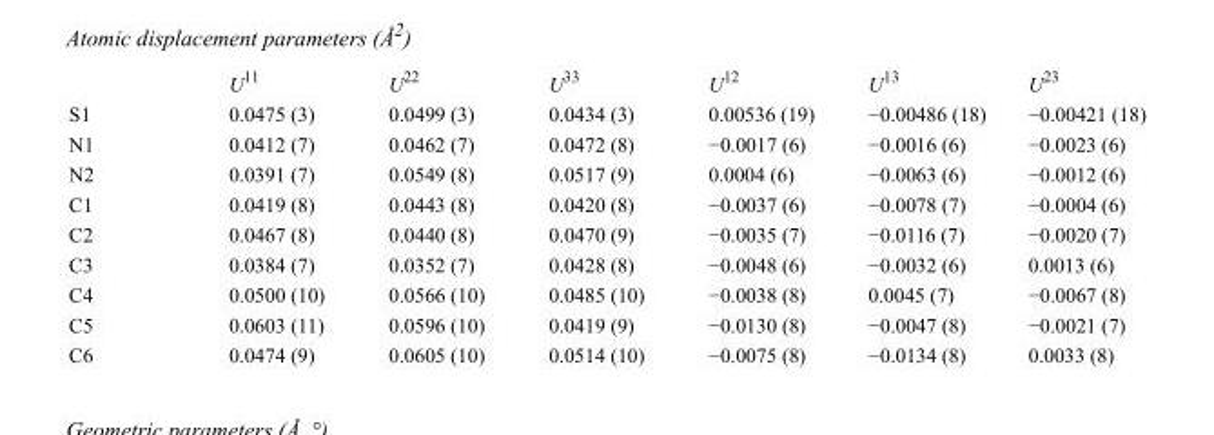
<table><thead><tr><td></td><td>U<sup>11</sup></td><td>U<sup>22</sup></td><td>U<sup>33</sup></td><td>U<sup>12</sup></td><td>U<sup>13</sup></td><td>U<sup>23</sup></td></tr></thead><tbody><tr><td>S1</td><td>0.0475 (3)</td><td>0.0499 (3)</td><td>0.0434 (3)</td><td>0.00536 (19)</td><td>−0.00486 (18)</td><td>−0.00421 (18)</td></tr><tr><td>N1</td><td>0.0412 (7)</td><td>0.0462 (7)</td><td>0.0472 (8)</td><td>−0.0017 (6)</td><td>−0.0016 (6)</td><td>−0.0023 (6)</td></tr><tr><td>N2</td><td>0.0391 (7)</td><td>0.0549 (8)</td><td>0.0517 (9)</td><td>0.0004 (6)</td><td>−0.0063 (6)</td><td>−0.0012 (6)</td></tr><tr><td>C1</td><td>0.0419 (8)</td><td>0.0443 (8)</td><td>0.0420 (8)</td><td>−0.0037 (6)</td><td>−0.0078 (7)</td><td>−0.0004 (6)</td></tr><tr><td>C2</td><td>0.0467 (8)</td><td>0.0440 (8)</td><td>0.0470 (9)</td><td>−0.0035 (7)</td><td>−0.0116 (7)</td><td>−0.0020 (7)</td></tr><tr><td>C3</td><td>0.0384 (7)</td><td>0.0352 (7)</td><td>0.0428 (8)</td><td>−0.0048 (6)</td><td>−0.0032 (6)</td><td>0.0013 (6)</td></tr><tr><td>C4</td><td>0.0500 (10)</td><td>0.0566 (10)</td><td>0.0485 (10)</td><td>−0.0038 (8)</td><td>0.0045 (7)</td><td>−0.0067 (8)</td></tr><tr><td>C5</td><td>0.0603 (11)</td><td>0.0596 (10)</td><td>0.0419 (9)</td><td>−0.0130 (8)</td><td>−0.0047 (8)</td><td>−0.0021 (7)</td></tr><tr><td>C6</td><td>0.0474 (9)</td><td>0.0605 (10)</td><td>0.0514 (10)</td><td>−0.0075 (8)</td><td>−0.0134 (8)</td><td>0.0033 (8)</td></tr></tbody></table>